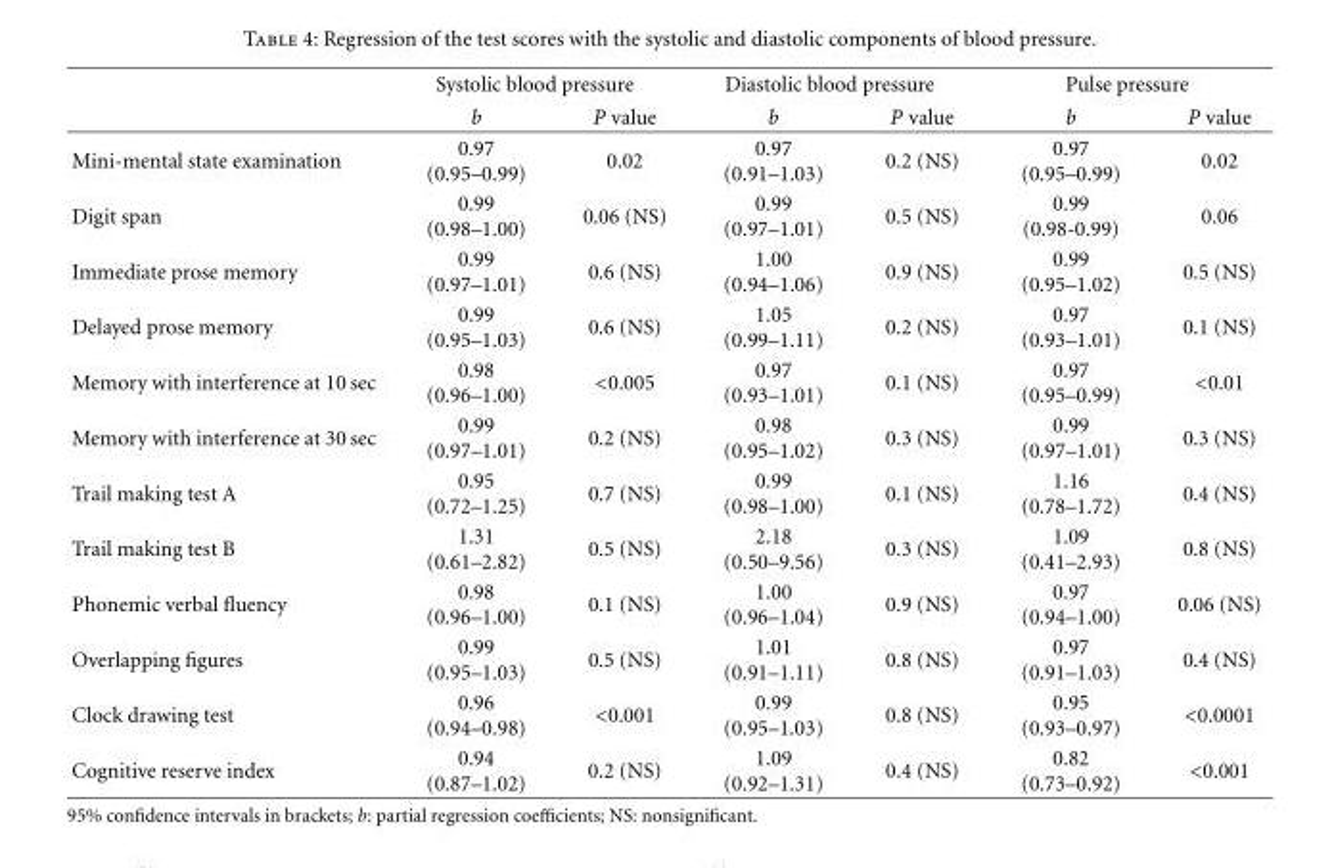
<table><thead><tr><td rowspan="2"></td><td colspan="2">Systolic blood pressure</td><td colspan="2">Diastolic blood pressure</td><td colspan="2">Pulse pressure</td></tr><tr><td>b</td><td>P value</td><td>b</td><td>P value</td><td>b</td><td>P value</td></tr></thead><tbody><tr><td>Mini-mental state examination</td><td>0.97 (0.95–0.99)</td><td>0.02</td><td>0.97 (0.91–1.03)</td><td>0.2 (NS)</td><td>0.97 (0.95–0.99)</td><td>0.02</td></tr><tr><td>Digit span</td><td>0.99 (0.98–1.00)</td><td>0.06 (NS)</td><td>0.99 (0.97–1.01)</td><td>0.5 (NS)</td><td>0.99 (0.98-0.99)</td><td>0.06</td></tr><tr><td>Immediate prose memory</td><td>0.99 (0.97–1.01)</td><td>0.6 (NS)</td><td>1.00 (0.94–1.06)</td><td>0.9 (NS)</td><td>0.99 (0.95–1.02)</td><td>0.5 (NS)</td></tr><tr><td>Delayed prose memory</td><td>0.99 (0.95–1.03)</td><td>0.6 (NS)</td><td>1.05 (0.99–1.11)</td><td>0.2 (NS)</td><td>0.97 (0.93–1.01)</td><td>0.1 (NS)</td></tr><tr><td>Memory with interference at 10 sec</td><td>0.98 (0.96–1.00)</td><td>&lt;0.005</td><td>0.97 (0.93–1.01)</td><td>0.1 (NS)</td><td>0.97 (0.95–0.99)</td><td>&lt;0.01</td></tr><tr><td>Memory with interference at 30 sec</td><td>0.99 (0.97–1.01)</td><td>0.2 (NS)</td><td>0.98 (0.95–1.02)</td><td>0.3 (NS)</td><td>0.99 (0.97–1.01)</td><td>0.3 (NS)</td></tr><tr><td>Trail making test A</td><td>0.95 (0.72–1.25)</td><td>0.7 (NS)</td><td>0.99 (0.98–1.00)</td><td>0.1 (NS)</td><td>1.16 (0.78–1.72)</td><td>0.4 (NS)</td></tr><tr><td>Trail making test B</td><td>1.31 (0.61–2.82)</td><td>0.5 (NS)</td><td>2.18 (0.50–9.56)</td><td>0.3 (NS)</td><td>1.09 (0.41–2.93)</td><td>0.8 (NS)</td></tr><tr><td>Phonemic verbal fluency</td><td>0.98 (0.96–1.00)</td><td>0.1 (NS)</td><td>1.00 (0.96–1.04)</td><td>0.9 (NS)</td><td>0.97 (0.94–1.00)</td><td>0.06 (NS)</td></tr><tr><td>Overlapping figures</td><td>0.99 (0.95–1.03)</td><td>0.5 (NS)</td><td>1.01 (0.91–1.11)</td><td>0.8 (NS)</td><td>0.97 (0.91–1.03)</td><td>0.4 (NS)</td></tr><tr><td>Clock drawing test</td><td>0.96 (0.94–0.98)</td><td>&lt;0.001</td><td>0.99 (0.95–1.03)</td><td>0.8 (NS)</td><td>0.95 (0.93–0.97)</td><td>&lt;0.0001</td></tr><tr><td>Cognitive reserve index</td><td>0.94 (0.87–1.02)</td><td>0.2 (NS)</td><td>1.09 (0.92–1.31)</td><td>0.4 (NS)</td><td>0.82 (0.73–0.92)</td><td>&lt;0.001</td></tr></tbody></table>